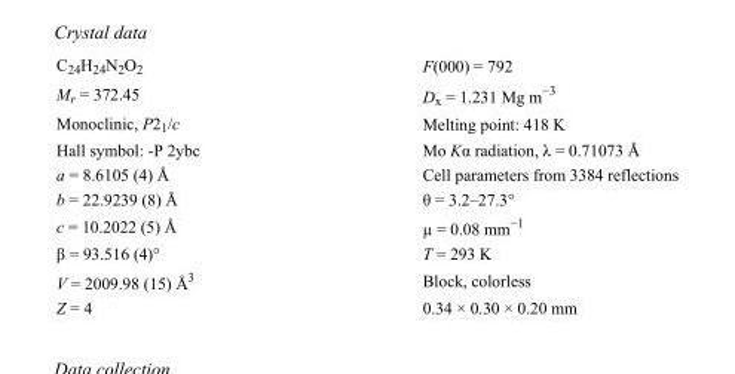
<table><tbody><tr><td>C<sub>24</sub>H<sub>24</sub>N<sub>2</sub>O<sub>2</sub></td><td>F(000) = 792</td></tr><tr><td>M<sub>r</sub> = 372.45</td><td>D<sub>x</sub> = 1.231 Mg m<sup>−3</sup></td></tr><tr><td>Monoclinic, P2<sub>1</sub>/c</td><td>Melting point: 418 K</td></tr><tr><td>Hall symbol: -P 2ybc</td><td>Mo Kα radiation, λ = 0.71073 Å</td></tr><tr><td>a = 8.6105 (4) Å</td><td>Cell parameters from 3384 reflections</td></tr><tr><td>b = 22.9239 (8) Å</td><td>θ = 3.2–27.3°</td></tr><tr><td>c = 10.2022 (5) Å</td><td>µ = 0.08 mm<sup>−1</sup></td></tr><tr><td>β = 93.516 (4)°</td><td>T = 293 K</td></tr><tr><td>V = 2009.98 (15) Å<sup>3</sup></td><td>Block, colorless</td></tr><tr><td>Z = 4</td><td>0.34 × 0.30 × 0.20 mm</td></tr></tbody></table>